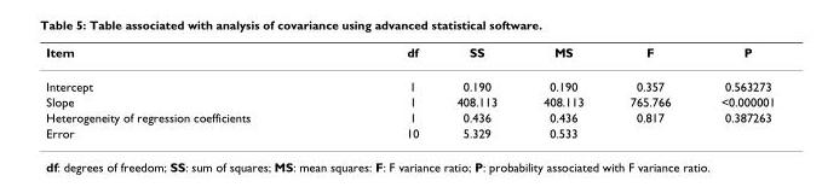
<table><thead><tr><td>Item</td><td>df</td><td>SS</td><td>MS</td><td>F</td><td>P</td></tr></thead><tbody><tr><td>Intercept</td><td>1</td><td>0.190</td><td>0.190</td><td>0.357</td><td>0.563273</td></tr><tr><td>Slope</td><td>1</td><td>408.113</td><td>408.113</td><td>765.766</td><td>&lt;0.000001</td></tr><tr><td>Heterogeneity of regression coefficients</td><td>1</td><td>0.436</td><td>0.436</td><td>0.817</td><td>0.387263</td></tr><tr><td>Error</td><td>10</td><td>5.329</td><td>0.533</td><td></td><td></td></tr></tbody></table>